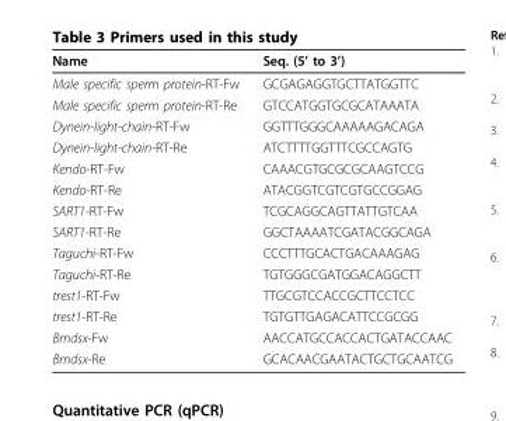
<table><thead><tr><td>Name</td><td>Seq. (5’ to 3’)</td></tr></thead><tbody><tr><td>Male specific sperm protein-RT-Fw</td><td>GCGAGAGGTGCTTATGGTTC</td></tr><tr><td>Male specific sperm protein-RT-Re</td><td>GTCCATGGTGCGCATAAATA</td></tr><tr><td>Dynein-light-chain-RT-Fw</td><td>GGTTTGGGCAAAAAGACAGA</td></tr><tr><td>Dynein-light-chain-RT-Re</td><td>ATCTTTTGGTTTCGCCAGTG</td></tr><tr><td>Kendo-RT-Fw</td><td>CAAACGTGCGCGCAAGTCCG</td></tr><tr><td>Kendo-RT-Re</td><td>ATACGGTCGTCGTGCCGGAG</td></tr><tr><td>SART1-RT-Fw</td><td>TCGCAGGCAGTTATTGTCAA</td></tr><tr><td>SART1-RT-Re</td><td>GGCTAAAATCGATACGGCAGA</td></tr><tr><td>Taguchi-RT-Fw</td><td>CCCTTTGCACTGACAAAGAG</td></tr><tr><td>Taguchi-RT-Re</td><td>TGTGGGCGATGGACAGGCTT</td></tr><tr><td>trest1-RT-Fw</td><td>TTGCGTCCACCGCTTCCTCC</td></tr><tr><td>trest1-RT-Re</td><td>TGTGTTGAGACATTCCGCGG</td></tr><tr><td>Bmdsx-Fw</td><td>AACCATGCCACCACTGATACCAAC</td></tr><tr><td>Bmdsx-Re</td><td>GCACAACGAATACTGCTGCAATCG</td></tr></tbody></table>